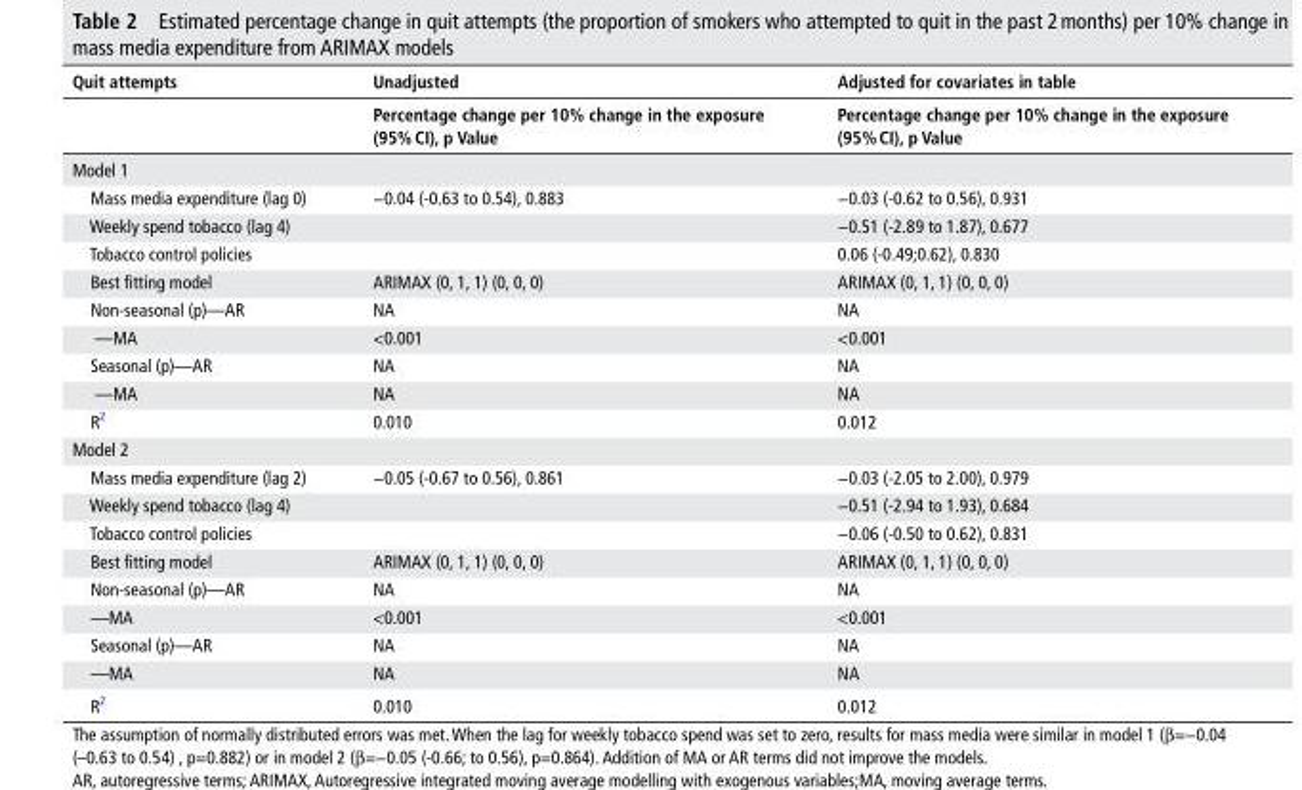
<table><thead><tr><td rowspan="2">Quit attempts</td><td rowspan="2">unadjusted Percentage change per 10% change in the exposure (95% CI), p Value</td><td rowspan="2">Adjusted for covariates in table Percentage change per 10% change in the exposure (95% CI), p Value</td></tr><tr></tr></thead><tbody><tr><td colspan="3">Model 1</td></tr><tr><td>Mass media expenditure (lag 0)</td><td>−0.04 (-0.63 to 0.54), 0.883</td><td>−0.03 (-0.62 to 0.56), 0.931</td></tr><tr><td>Weekly spend tobacco (lag 4)</td><td></td><td>−0.51 (-2.89 to 1.87), 0.677</td></tr><tr><td>Tobacco control policies</td><td></td><td>0.06 (-0.49;0.62), 0.830</td></tr><tr><td>Best fitting model</td><td>ARIMAX (0, 1, 1) (0, 0, 0)</td><td>ARIMAX (0, 1, 1) (0, 0, 0)</td></tr><tr><td>Non-seasonal (p)—AR</td><td>NA</td><td>NA</td></tr><tr><td>—MA</td><td>&lt;0.001</td><td>&lt;0.001</td></tr><tr><td>Seasonal (p)—AR</td><td>NA</td><td>NA</td></tr><tr><td>—MA</td><td>NA</td><td>NA</td></tr><tr><td>R<sup>2</sup></td><td>0.010</td><td>0.012</td></tr><tr><td colspan="3">Model 2</td></tr><tr><td>Mass media expenditure (lag 2)</td><td>−0.05 (-0.67 to 0.56), 0.861</td><td>−0.03 (-2.05 to 2.00), 0.979</td></tr><tr><td>Weekly spend tobacco (lag 4)</td><td></td><td>−0.51 (-2.94 to 1.93), 0.684</td></tr><tr><td>Tobacco control policies</td><td></td><td>−0.06 (-0.50 to 0.62), 0.831</td></tr><tr><td>Best fitting model</td><td>ARIMAX (0, 1, 1) (0, 0, 0)</td><td>ARIMAX (0, 1, 1) (0, 0, 0)</td></tr><tr><td>Non-seasonal (p)—AR</td><td>NA</td><td>NA</td></tr><tr><td>—MA</td><td>&lt;0.001</td><td>&lt;0.001</td></tr><tr><td>Seasonal (p)—AR</td><td>NA</td><td>NA</td></tr><tr><td>—MA</td><td>NA</td><td>NA</td></tr><tr><td>R<sup>2</sup></td><td>0.010</td><td>0.012</td></tr></tbody></table>